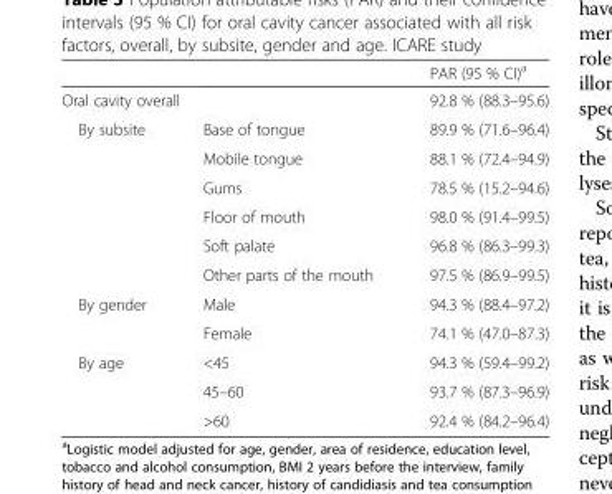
<table><thead><tr><td></td><td></td><td>PAR (95 % CI)<sup>a</sup></td></tr></thead><tbody><tr><td colspan="2">Oral cavity overall</td><td>92.8 % (88.3–95.6)</td></tr><tr><td rowspan="6">By subsite</td><td>Base of tongue</td><td>89.9 % (71.6–96.4)</td></tr><tr><td>Mobile tongue</td><td>88.1 % (72.4–94.9)</td></tr><tr><td>Gums</td><td>78.5 % (15.2–94.6)</td></tr><tr><td>Floor of mouth</td><td>98.0 % (91.4–99.5)</td></tr><tr><td>Soft palate</td><td>96.8 % (86.3–99.3)</td></tr><tr><td>Other parts of the mouth</td><td>97.5 % (86.9–99.5)</td></tr><tr><td rowspan="2">By gender</td><td>Male</td><td>94.3 % (88.4–97.2)</td></tr><tr><td>Female</td><td>74.1 % (47.0–87.3)</td></tr><tr><td rowspan="3">By age</td><td>&lt;45</td><td>94.3 % (59.4–99.2)</td></tr><tr><td>45–60</td><td>93.7 % (87.3–96.9)</td></tr><tr><td>&gt;60</td><td>92.4 % (84.2–96.4)</td></tr></tbody></table>